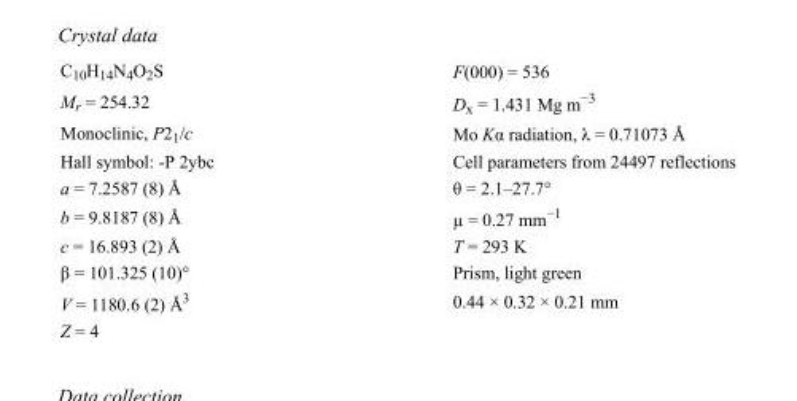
<table><tbody><tr><td>C<sub>10</sub>H<sub>14</sub>N<sub>4</sub>O<sub>2</sub>S</td><td>F(000) = 536</td></tr><tr><td>M<sub>r</sub> = 254.32</td><td>D<sub>x</sub> = 1.431 Mg m<sup>−3</sup></td></tr><tr><td>Monoclinic, P2<sub>1</sub>/c</td><td>Mo Kα radiation, λ = 0.71073 Å</td></tr><tr><td>Hall symbol: -P 2ybc</td><td>Cell parameters from 24497 reflections</td></tr><tr><td>a = 7.2587 (8) Å</td><td>θ = 2.1–27.7°</td></tr><tr><td>b = 9.8187 (8) Å</td><td>µ = 0.27 mm<sup>−1</sup></td></tr><tr><td>c = 16.893 (2) Å</td><td>T = 293 K</td></tr><tr><td>β = 101.325 (10)°</td><td>Prism, light green</td></tr><tr><td>V = 1180.6 (2) Å<sup>3</sup></td><td>0.44 × 0.32 × 0.21 mm</td></tr><tr><td>Z = 4</td><td></td></tr></tbody></table>